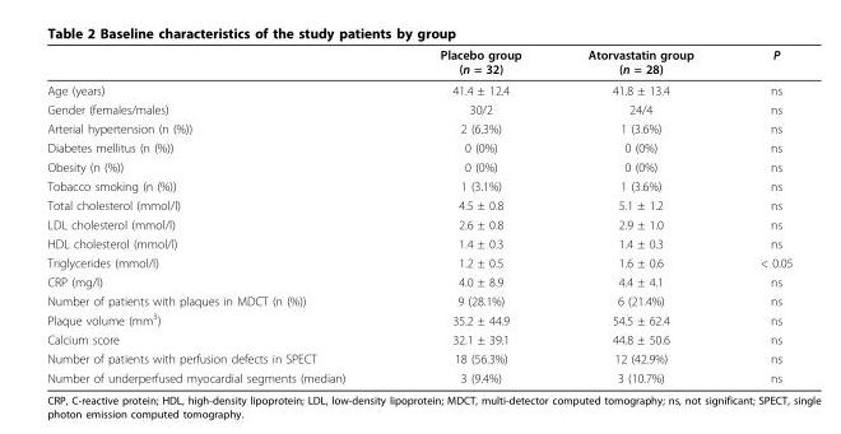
<table><thead><tr><td></td><td>Placebo group (n = 32)</td><td>Atorvastatin group (n = 28)</td><td>P</td></tr></thead><tbody><tr><td>Age (years)</td><td>41.4 ± 12.4</td><td>41.8 ± 13.4</td><td>ns</td></tr><tr><td>Gender (females/males)</td><td>30/2</td><td>24/4</td><td>ns</td></tr><tr><td>Arterial hypertension (n (%))</td><td>2 (6.3%)</td><td>1 (3.6%)</td><td>ns</td></tr><tr><td>Diabetes mellitus (n (%))</td><td>0 (0%)</td><td>0 (0%)</td><td>ns</td></tr><tr><td>Obesity (n (%))</td><td>0 (0%)</td><td>0 (0%)</td><td>ns</td></tr><tr><td>Tobacco smoking (n (%))</td><td>1 (3.1%)</td><td>1 (3.6%)</td><td>ns</td></tr><tr><td>Total cholesterol (mmol/l)</td><td>4.5 ± 0.8</td><td>5.1 ± 1.2</td><td>ns</td></tr><tr><td>LDL cholesterol (mmol/l)</td><td>2.6 ± 0.8</td><td>2.9 ± 1.0</td><td>ns</td></tr><tr><td>HDL cholesterol (mmol/l)</td><td>1.4 ± 0.3</td><td>1.4 ± 0.3</td><td>ns</td></tr><tr><td>Triglycerides (mmol/l)</td><td>1.2 ± 0.5</td><td>1.6 ± 0.6</td><td>&lt; 0.05</td></tr><tr><td>CRP (mg/l)</td><td>4.0 ± 8.9</td><td>4.4 ± 4.1</td><td>ns</td></tr><tr><td>Number of patients with plaques in MDCT (n (%))</td><td>9 (28.1%)</td><td>6 (21.4%)</td><td>ns</td></tr><tr><td>Plaque volume (mm<sup>3</sup>)</td><td>35.2 ± 44.9</td><td>54.5 ± 62.4</td><td>ns</td></tr><tr><td>Calcium score</td><td>32.1 ± 39.1</td><td>44.8 ± 50.6</td><td>ns</td></tr><tr><td>Number of patients with perfusion defects in SPECT</td><td>18 (56.3%)</td><td>12 (42.9%)</td><td>ns</td></tr><tr><td>Number of underperfused myocardial segments (median)</td><td>3 (9.4%)</td><td>3 (10.7%)</td><td>ns</td></tr></tbody></table>